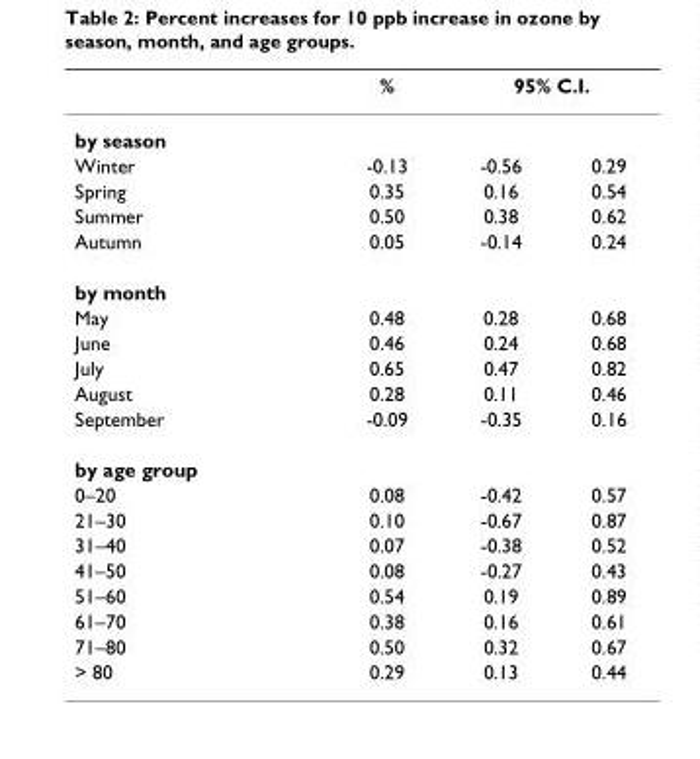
<table><thead><tr><td rowspan="2">by season</td><td rowspan="2">%</td><td colspan="2">95% C.I.</td></tr><tr><td></td><td></td></tr></thead><tbody><tr><td>Winter</td><td>-0.13</td><td>-0.56</td><td>0.29</td></tr><tr><td>Spring</td><td>0.35</td><td>0.16</td><td>0.54</td></tr><tr><td>Summer</td><td>0.50</td><td>0.38</td><td>0.62</td></tr><tr><td>Autumn</td><td>0.05</td><td>-0.14</td><td>0.24</td></tr><tr><td colspan="4">by month</td></tr><tr><td>May</td><td>0.48</td><td>0.28</td><td>0.68</td></tr><tr><td>June</td><td>0.46</td><td>0.24</td><td>0.68</td></tr><tr><td>July</td><td>0.65</td><td>0.47</td><td>0.82</td></tr><tr><td>August</td><td>0.28</td><td>0.11</td><td>0.46</td></tr><tr><td>September</td><td>-0.09</td><td>-0.35</td><td>0.16</td></tr><tr><td colspan="4">by age group</td></tr><tr><td>0–20</td><td>0.08</td><td>-0.42</td><td>0.57</td></tr><tr><td>21–30</td><td>0.10</td><td>-0.67</td><td>0.87</td></tr><tr><td>31–40</td><td>0.07</td><td>-0.38</td><td>0.52</td></tr><tr><td>41–50</td><td>0.08</td><td>-0.27</td><td>0.43</td></tr><tr><td>51–60</td><td>0.54</td><td>0.19</td><td>0.89</td></tr><tr><td>61–70</td><td>0.38</td><td>0.16</td><td>0.61</td></tr><tr><td>71–80</td><td>0.50</td><td>0.32</td><td>0.67</td></tr><tr><td>&gt; 80</td><td>0.29</td><td>0.13</td><td>0.44</td></tr></tbody></table>